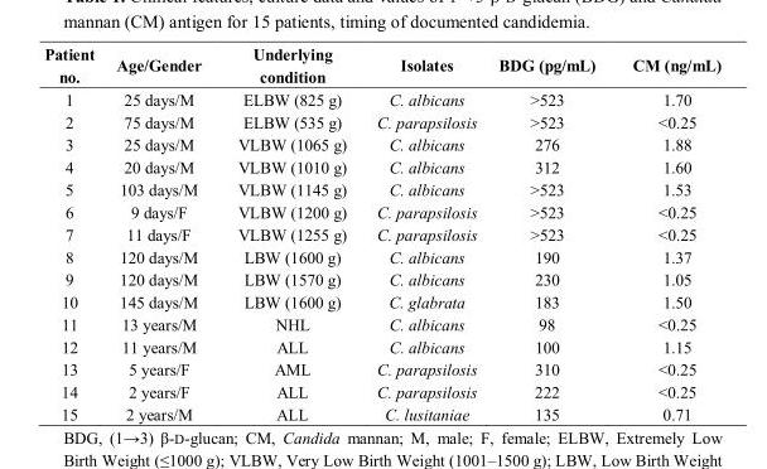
<table><thead><tr><td>Patient no.</td><td>Age/Gender</td><td>Underlying condition</td><td>Isolates</td><td>BDG (pg/mL)</td><td>CM (ng/mL)</td></tr></thead><tbody><tr><td>1</td><td>25 days/M</td><td>ELBW (825 g)</td><td>C. albicans</td><td>&gt;523</td><td>1.70</td></tr><tr><td>2</td><td>75 days/M</td><td>ELBW (535 g)</td><td>C. parapsilosis</td><td>&gt;523</td><td>&lt;0.25</td></tr><tr><td>3</td><td>25 days/M</td><td>VLBW (1065 g)</td><td>C. albicans</td><td>276</td><td>1.88</td></tr><tr><td>4</td><td>20 days/M</td><td>VLBW (1010 g)</td><td>C. albicans</td><td>312</td><td>1.60</td></tr><tr><td>5</td><td>103 days/M</td><td>VLBW (1145 g)</td><td>C. albicans</td><td>&gt;523</td><td>1.53</td></tr><tr><td>6</td><td>9 days/F</td><td>VLBW (1200 g)</td><td>C. parapsilosis</td><td>&gt;523</td><td>&lt;0.25</td></tr><tr><td>7</td><td>11 days/F</td><td>VLBW (1255 g)</td><td>C. parapsilosis</td><td>&gt;523</td><td>&lt;0.25</td></tr><tr><td>8</td><td>120 days/M</td><td>LBW (1600 g)</td><td>C. albicans</td><td>190</td><td>1.37</td></tr><tr><td>9</td><td>120 days/M</td><td>LBW (1570 g)</td><td>C. albicans</td><td>230</td><td>1.05</td></tr><tr><td>10</td><td>145 days/M</td><td>LBW (1600 g)</td><td>C. glabrata</td><td>183</td><td>1.50</td></tr><tr><td>11</td><td>13 years/M</td><td>NHL</td><td>C. albicans</td><td>98</td><td>&lt;0.25</td></tr><tr><td>12</td><td>11 years/M</td><td>ALL</td><td>C. albicans</td><td>100</td><td>1.15</td></tr><tr><td>13</td><td>5 years/F</td><td>AML</td><td>C. parapsilosis</td><td>310</td><td>&lt;0.25</td></tr><tr><td>14</td><td>2 years/F</td><td>ALL</td><td>C. parapsilosis</td><td>222</td><td>&lt;0.25</td></tr><tr><td>15</td><td>2 years/M</td><td>ALL</td><td>C. lusitaniae</td><td>135</td><td>0.71</td></tr></tbody></table>